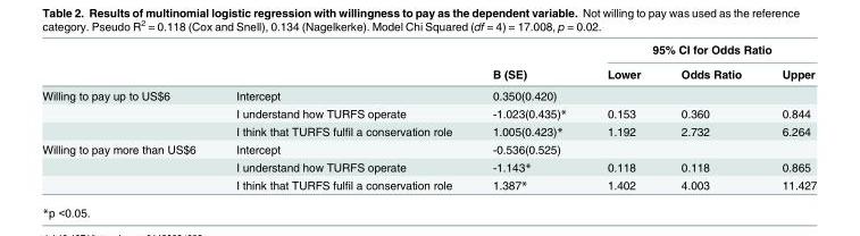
<table><thead><tr><td rowspan="2"></td><td rowspan="2"></td><td rowspan="2">B (SE)</td><td colspan="3">95% CI for Odds Ratio</td></tr><tr><td>Lower</td><td>Odds Ratio</td><td>Upper</td></tr></thead><tbody><tr><td rowspan="3">Willing to pay up to US$6</td><td>Intercept</td><td>0.350(0.420)</td><td></td><td></td><td></td></tr><tr><td>I understand how TURFS operate</td><td>-1.023(0.435)*</td><td>0.153</td><td>0.360</td><td>0.844</td></tr><tr><td>I think that TURFS fulfil a conservation role</td><td>1.005(0.423)*</td><td>1.192</td><td>2.732</td><td>6.264</td></tr><tr><td rowspan="3">Willing to pay more than US$6</td><td>Intercept</td><td>-0.536(0.525)</td><td></td><td></td><td></td></tr><tr><td>I understand how TURFS operate</td><td>-1.143*</td><td>0.118</td><td>0.118</td><td>0.865</td></tr><tr><td>I think that TURFS fulfil a conservation role</td><td>1.387*</td><td>1.402</td><td>4.003</td><td>11.427</td></tr></tbody></table>